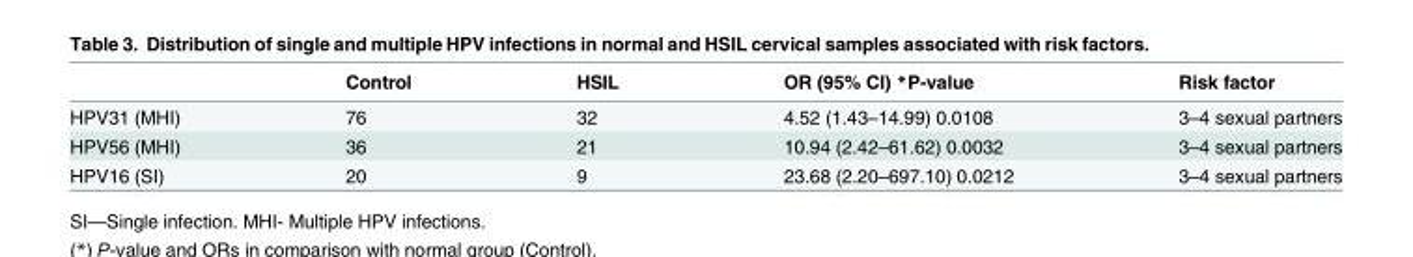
<table><thead><tr><td></td><td>Control</td><td>HSIL</td><td>OR (95% CI) *P-value</td><td>Risk factor</td></tr></thead><tbody><tr><td>HPV31 (MHI)</td><td>76</td><td>32</td><td>4.52 (1.43–14.99) 0.0108</td><td>3–4 sexual partners</td></tr><tr><td>HPV56 (MHI)</td><td>36</td><td>21</td><td>10.94 (2.42–61.62) 0.0032</td><td>3–4 sexual partners</td></tr><tr><td>HPV16 (SI)</td><td>20</td><td>9</td><td>23.68 (2.20–697.10) 0.0212</td><td>3–4 sexual partners</td></tr></tbody></table>